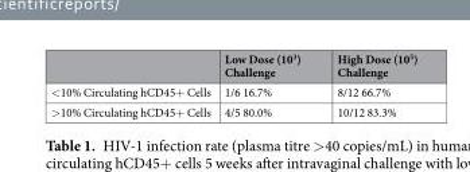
<table><thead><tr><td></td><td>Low Dose (10<sup>3</sup>) Challenge</td><td>High Dose (10<sup>5</sup>) Challenge</td></tr></thead><tbody><tr><td>&lt;10% Circulating hCD45+ Cells</td><td>1/6 16.7%</td><td>8/12 66.7%</td></tr><tr><td>&gt;10% Circulating hCD45+ Cells</td><td>4/5 80.0%</td><td>10/12 83.3%</td></tr></tbody></table>